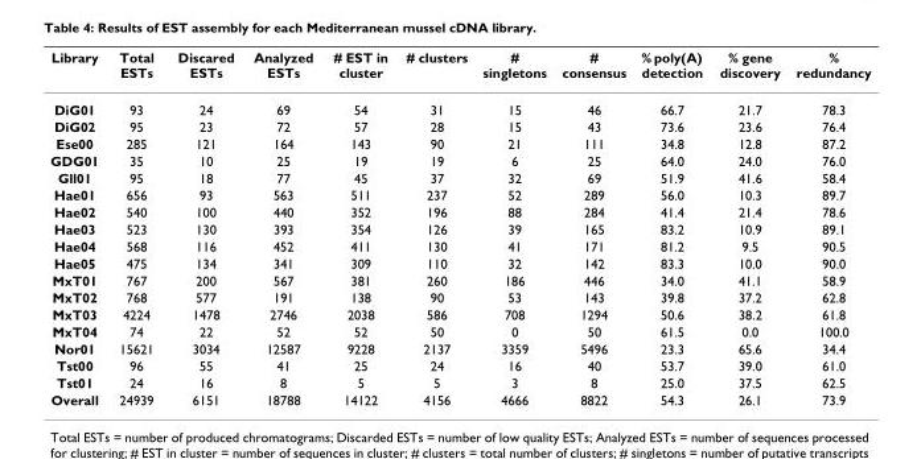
<table><thead><tr><td>Library</td><td>Total ESTs</td><td>Discared ESTs</td><td>Analyzed ESTs</td><td># EST in cluster</td><td># clusters</td><td># singletons</td><td># consensus</td><td>% poly(A) detection</td><td>% gene discovery</td><td>% redundancy</td></tr></thead><tbody><tr><td>DiG01</td><td>93</td><td>24</td><td>69</td><td>54</td><td>31</td><td>15</td><td>46</td><td>66.7</td><td>21.7</td><td>78.3</td></tr><tr><td>DiG02</td><td>95</td><td>23</td><td>72</td><td>57</td><td>28</td><td>15</td><td>43</td><td>73.6</td><td>23.6</td><td>76.4</td></tr><tr><td>Ese00</td><td>285</td><td>121</td><td>164</td><td>143</td><td>90</td><td>21</td><td>111</td><td>34.8</td><td>12.8</td><td>87.2</td></tr><tr><td>GDG01</td><td>35</td><td>10</td><td>25</td><td>19</td><td>19</td><td>6</td><td>25</td><td>64.0</td><td>24.0</td><td>76.0</td></tr><tr><td>Gll01</td><td>95</td><td>18</td><td>77</td><td>45</td><td>37</td><td>32</td><td>69</td><td>51.9</td><td>41.6</td><td>58.4</td></tr><tr><td>Hae01</td><td>656</td><td>93</td><td>563</td><td>511</td><td>237</td><td>52</td><td>289</td><td>56.0</td><td>10.3</td><td>89.7</td></tr><tr><td>Hae02</td><td>540</td><td>100</td><td>440</td><td>352</td><td>196</td><td>88</td><td>284</td><td>41.4</td><td>21.4</td><td>78.6</td></tr><tr><td>Hae03</td><td>523</td><td>130</td><td>393</td><td>354</td><td>126</td><td>39</td><td>165</td><td>83.2</td><td>10.9</td><td>89.1</td></tr><tr><td>Hae04</td><td>568</td><td>116</td><td>452</td><td>411</td><td>130</td><td>41</td><td>171</td><td>81.2</td><td>9.5</td><td>90.5</td></tr><tr><td>Hae05</td><td>475</td><td>134</td><td>341</td><td>309</td><td>110</td><td>32</td><td>142</td><td>83.3</td><td>10.0</td><td>90.0</td></tr><tr><td>MxT01</td><td>767</td><td>200</td><td>567</td><td>381</td><td>260</td><td>186</td><td>446</td><td>34.0</td><td>41.1</td><td>58.9</td></tr><tr><td>MxT02</td><td>768</td><td>577</td><td>191</td><td>138</td><td>90</td><td>53</td><td>143</td><td>39.8</td><td>37.2</td><td>62.8</td></tr><tr><td>MxT03</td><td>4224</td><td>1478</td><td>2746</td><td>2038</td><td>586</td><td>708</td><td>1294</td><td>50.6</td><td>38.2</td><td>61.8</td></tr><tr><td>MxT04</td><td>74</td><td>22</td><td>52</td><td>52</td><td>50</td><td>0</td><td>50</td><td>61.5</td><td>0.0</td><td>100.0</td></tr><tr><td>Nor01</td><td>15621</td><td>3034</td><td>12587</td><td>9228</td><td>2137</td><td>3359</td><td>5496</td><td>23.3</td><td>65.6</td><td>34.4</td></tr><tr><td>Tst00</td><td>96</td><td>55</td><td>41</td><td>25</td><td>24</td><td>16</td><td>40</td><td>53.7</td><td>39.0</td><td>61.0</td></tr><tr><td>Tst01</td><td>24</td><td>16</td><td>8</td><td>5</td><td>5</td><td>3</td><td>8</td><td>25.0</td><td>37.5</td><td>62.5</td></tr><tr><td>Overall</td><td>24939</td><td>6151</td><td>18788</td><td>14122</td><td>4156</td><td>4666</td><td>8822</td><td>54.3</td><td>26.1</td><td>73.9</td></tr></tbody></table>